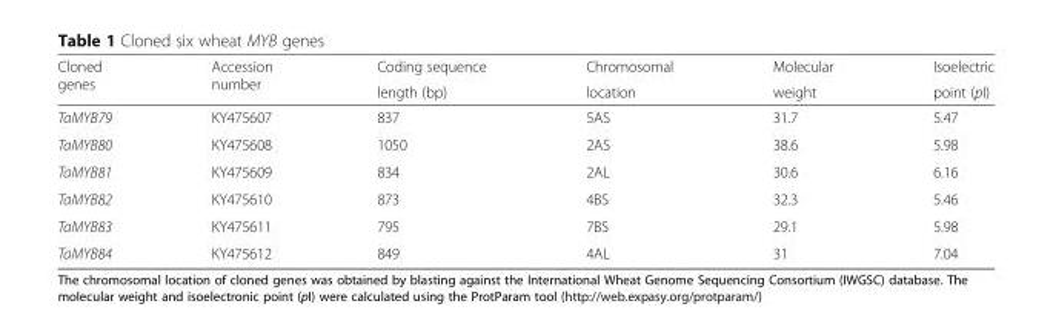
<table><thead><tr><td rowspan="2">Cloned genes</td><td rowspan="2">Accession number</td><td rowspan="2">Coding sequence length (bp)</td><td rowspan="2">Chromosomal location</td><td rowspan="2">Molecular weight</td><td rowspan="2">Isoelectric point (pI)</td></tr><tr></tr></thead><tbody><tr><td>TaMYB79</td><td>KY475607</td><td>837</td><td>5AS</td><td>31.7</td><td>5.47</td></tr><tr><td>TaMYB80</td><td>KY475608</td><td>1050</td><td>2AS</td><td>38.6</td><td>5.98</td></tr><tr><td>TaMYB81</td><td>KY475609</td><td>834</td><td>2AL</td><td>30.6</td><td>6.16</td></tr><tr><td>TaMYB82</td><td>KY475610</td><td>873</td><td>4BS</td><td>32.3</td><td>5.46</td></tr><tr><td>TaMYB83</td><td>KY475611</td><td>795</td><td>7BS</td><td>29.1</td><td>5.98</td></tr><tr><td>TaMYB84</td><td>KY475612</td><td>849</td><td>4AL</td><td>31</td><td>7.04</td></tr></tbody></table>